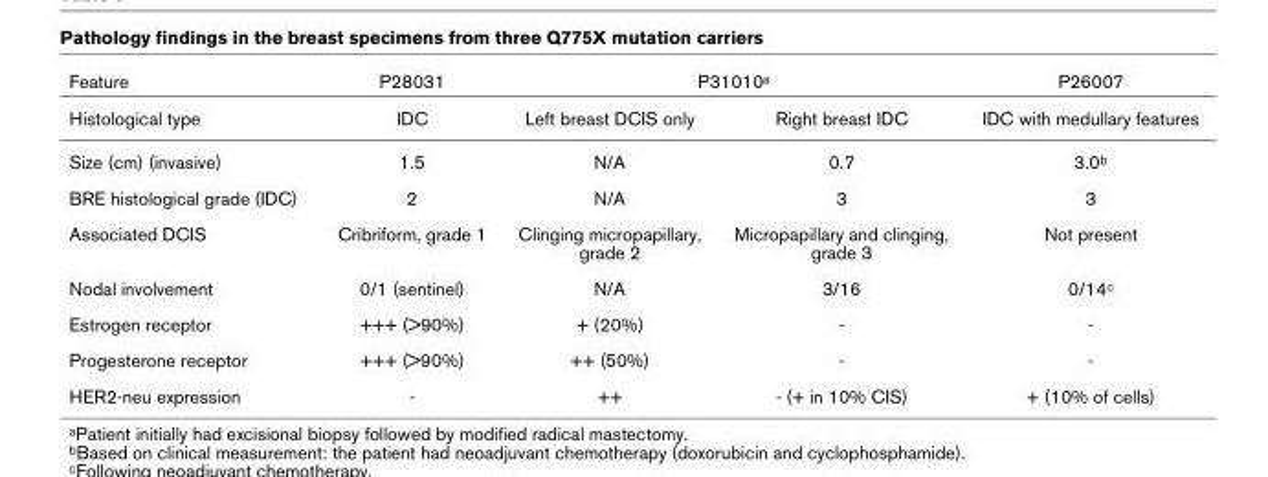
<table><thead><tr><td rowspan="2">Feature Histological type</td><td rowspan="2">P28031 IDC</td><td colspan="2">P31010a</td><td rowspan="2">P26007 IDC with medullary features</td></tr><tr><td>Left breast DCIS only</td><td>Right breast IDC</td></tr></thead><tbody><tr><td>Size (cm) (invasive)</td><td>1.5</td><td>N/A</td><td>0.7</td><td>3.0<sup>b</sup></td></tr><tr><td>BRE histological grade (IDC)</td><td>2</td><td>N/A</td><td>3</td><td>3</td></tr><tr><td>Associated DCIS</td><td>Cribriform, grade 1</td><td>Clinging micropapillary, grade 2</td><td>Micropapillary and clinging, grade 3</td><td>Not present</td></tr><tr><td>Nodal involvement</td><td>0/1 (sentinel)</td><td>N/A</td><td>3/16</td><td>0/14<sup>c</sup></td></tr><tr><td>Estrogen receptor</td><td>+++ (&gt;90%)</td><td>+ (20%)</td><td>-</td><td>-</td></tr><tr><td>Progesterone receptor</td><td>+++ (&gt;90%)</td><td>++ (50%)</td><td>-</td><td>-</td></tr><tr><td>HER2-neu expression</td><td>-</td><td>++</td><td>- (+ in 10% CIS)</td><td>+ (10% of cells)</td></tr></tbody></table>